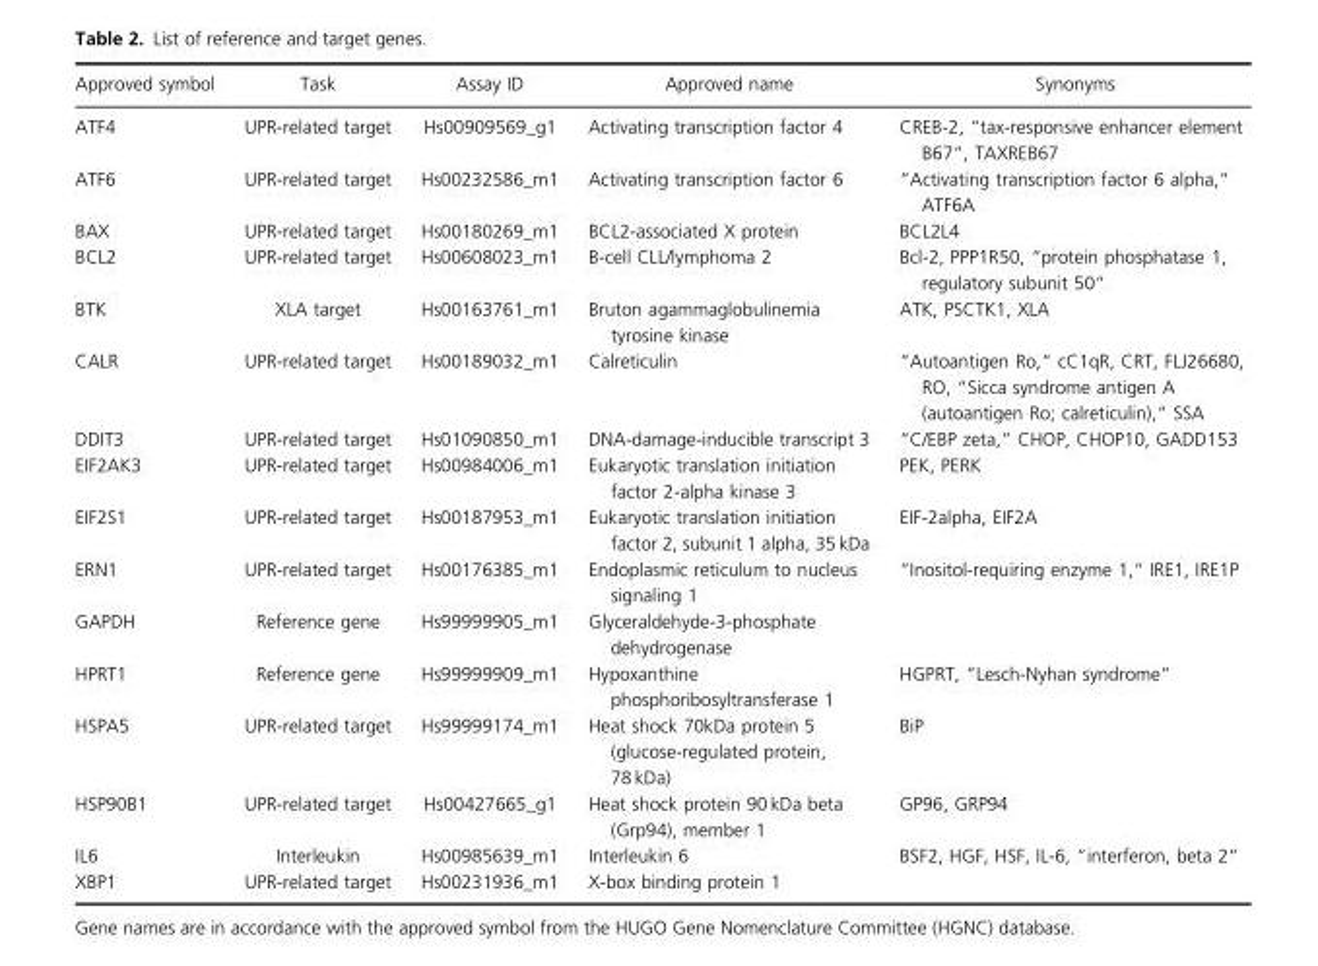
<table><thead><tr><td>Approved symbol</td><td>Task</td><td>Assay ID</td><td>Approved name</td><td>Synonyms</td></tr></thead><tbody><tr><td>ATF4</td><td>UPR-related target</td><td>Hs00909569_g1</td><td>Activating transcription factor 4</td><td>CREB-2, “tax-responsive enhancer element B67“, TAXREB67</td></tr><tr><td>ATF6</td><td>UPR-related target</td><td>Hs00232586_m1</td><td>Activating transcription factor 6</td><td>“Activating transcription factor 6 alpha,“ ATF6A</td></tr><tr><td>BAX</td><td>UPR-related target</td><td>Hs00180269_m1</td><td>BCL2-associated X protein</td><td>BCL2L4</td></tr><tr><td>BCL2</td><td>UPR-related target</td><td>Hs00608023_m1</td><td>B-cell CLL/lymphoma 2</td><td>Bcl-2, PPP1R50, “protein phosphatase 1, regulatory subunit 50“</td></tr><tr><td>BTK</td><td>XLA target</td><td>Hs00163761_m1</td><td>Bruton agammaglobulinemia tyrosine kinase</td><td>ATK, PSCTK1, XLA</td></tr><tr><td>CALR</td><td>UPR-related target</td><td>Hs00189032_m1</td><td>Calreticulin</td><td>“Autoantigen Ro,“ cC1qR, CRT, FLJ26680, RO, “Sicca syndrome antigen A (autoantigen Ro; calreticulin),“ SSA</td></tr><tr><td>DDIT3</td><td>UPR-related target</td><td>Hs01090850_m1</td><td>DNA-damage-inducible transcript 3</td><td>“C/EBP zeta,“ CHOP, CHOP10, GADD153</td></tr><tr><td>EIF2AK3</td><td>UPR-related target</td><td>Hs00984006_m1</td><td>Eukaryotic translation initiation factor 2-alpha kinase 3</td><td>PEK, PERK</td></tr><tr><td>EIF2S1</td><td>UPR-related target</td><td>Hs00187953_m1</td><td>Eukaryotic translation initiation factor 2, subunit 1 alpha, 35 kDa</td><td>EIF-2alpha, EIF2A</td></tr><tr><td>ERN1</td><td>UPR-related target</td><td>Hs00176385_m1</td><td>Endoplasmic reticulum to nucleus signaling 1</td><td>“Inositol-requiring enzyme 1,“ IRE1, IRE1P</td></tr><tr><td>GAPDH</td><td>Reference gene</td><td>Hs99999905_m1</td><td>Glyceraldehyde-3-phosphate dehydrogenase</td><td></td></tr><tr><td>HPRT1</td><td>Reference gene</td><td>Hs99999909_m1</td><td>Hypoxanthine phosphoribosyltransferase 1</td><td>HGPRT, “Lesch-Nyhan syndrome“</td></tr><tr><td>HSPA5</td><td>UPR-related target</td><td>Hs99999174_m1</td><td>Heat shock 70kDa protein 5 (glucose-regulated protein, 78 kDa)</td><td>BiP</td></tr><tr><td>HSP90B1</td><td>UPR-related target</td><td>Hs00427665_g1</td><td>Heat shock protein 90 kDa beta (Grp94), member 1</td><td>GP96, GRP94</td></tr><tr><td>IL6</td><td>Interleukin</td><td>Hs00985639_m1</td><td>Interleukin 6</td><td>BSF2, HGF, HSF, IL-6, “interferon, beta 2“</td></tr><tr><td>XBP1</td><td>UPR-related target</td><td>Hs00231936_m1</td><td>X-box binding protein 1</td><td></td></tr></tbody></table>